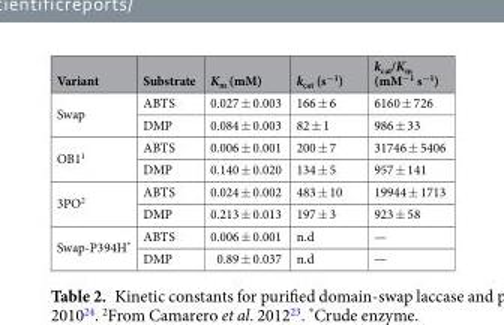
<table><thead><tr><td>Variant</td><td>Substrate</td><td>K<sub>m</sub> (mM)</td><td>k<sub>cat</sub> (s<sup>−1</sup>)</td><td>k<sub>cat</sub>/K<sub>m</sub> (mM<sup>−1</sup> s<sup>−1</sup>)</td></tr></thead><tbody><tr><td rowspan="2">Swap</td><td>ABTS</td><td>0.027 ± 0.003</td><td>166 ± 6</td><td>6160 ± 726</td></tr><tr><td>DMP</td><td>0.084 ± 0.003</td><td>82 ± 1</td><td>986 ± 33</td></tr><tr><td rowspan="2">OB1<sup>1</sup></td><td>ABTS</td><td>0.006 ± 0.001</td><td>200 ± 7</td><td>31746 ± 5406</td></tr><tr><td>DMP</td><td>0.140 ± 0.020</td><td>134 ± 5</td><td>957 ± 141</td></tr><tr><td rowspan="2">3PO<sup>2</sup></td><td>ABTS</td><td>0.024 ± 0.002</td><td>483 ± 10</td><td>19944 ± 1713</td></tr><tr><td>DMP</td><td>0.213 ± 0.013</td><td>197 ± 3</td><td>923 ± 58</td></tr><tr><td rowspan="2">Swap-P394H*</td><td>ABTS</td><td>0.006 ± 0.001</td><td>n.d</td><td>—</td></tr><tr><td>DMP</td><td>0.89 ± 0.037</td><td>n.d</td><td>—</td></tr></tbody></table>